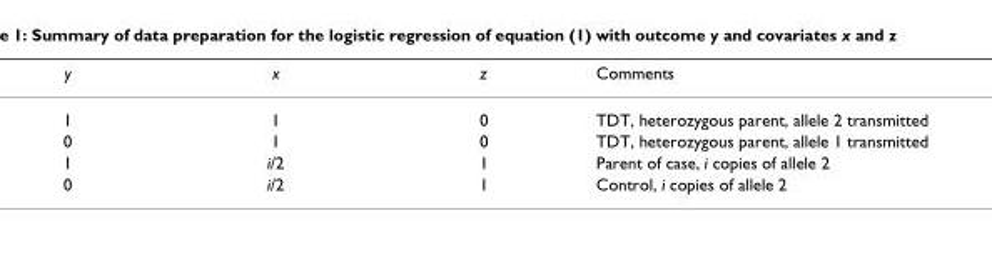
<table><thead><tr><td>y</td><td>x</td><td>z</td><td>Comments</td></tr></thead><tbody><tr><td>1</td><td>1</td><td>0</td><td>TDT, heterozygous parent, allele 2 transmitted</td></tr><tr><td>0</td><td>1</td><td>0</td><td>TDT, heterozygous parent, allele 1 transmitted</td></tr><tr><td>1</td><td>i/2</td><td>1</td><td>Parent of case, i copies of allele 2</td></tr><tr><td>0</td><td>i/2</td><td>1</td><td>Control, i copies of allele 2</td></tr></tbody></table>